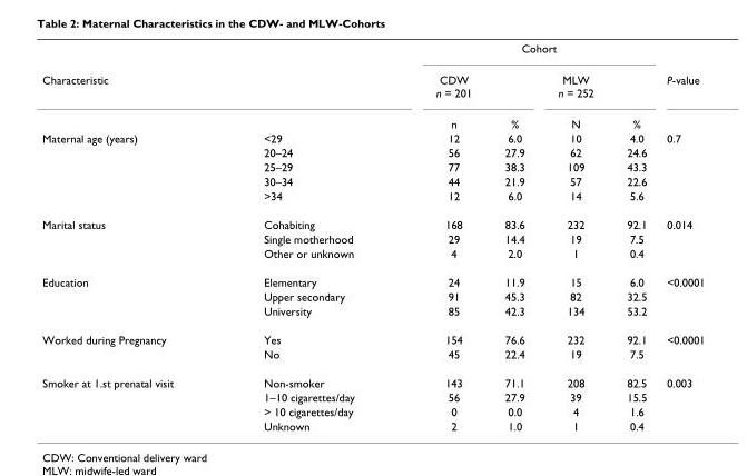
<table><thead><tr><td rowspan="2">Characteristic</td><td rowspan="2"></td><td colspan="4">Cohort</td><td rowspan="2">P-value</td></tr><tr><td>CDW n = 201</td><td></td><td>MLW n = 252</td><td></td></tr></thead><tbody><tr><td></td><td></td><td>n</td><td>%</td><td>N</td><td>%</td><td></td></tr><tr><td rowspan="5">Maternal age (years)</td><td>&lt;29</td><td>12</td><td>6.0</td><td>10</td><td>4.0</td><td>0.7</td></tr><tr><td>20–24</td><td>56</td><td>27.9</td><td>62</td><td>24.6</td><td></td></tr><tr><td>25–29</td><td>77</td><td>38.3</td><td>109</td><td>43.3</td><td></td></tr><tr><td>30–34</td><td>44</td><td>21.9</td><td>57</td><td>22.6</td><td></td></tr><tr><td>&gt;34</td><td>12</td><td>6.0</td><td>14</td><td>5.6</td><td></td></tr><tr><td rowspan="3">Marital status</td><td>Cohabiting</td><td>168</td><td>83.6</td><td>232</td><td>92.1</td><td>0.014</td></tr><tr><td>Single motherhood</td><td>29</td><td>14.4</td><td>19</td><td>7.5</td><td></td></tr><tr><td>Other or unknown</td><td>4</td><td>2.0</td><td>1</td><td>0.4</td><td></td></tr><tr><td rowspan="3">Education</td><td>Elementary</td><td>24</td><td>11.9</td><td>15</td><td>6.0</td><td>&lt;0.0001</td></tr><tr><td>Upper secondary</td><td>91</td><td>45.3</td><td>82</td><td>32.5</td><td></td></tr><tr><td>University</td><td>85</td><td>42.3</td><td>134</td><td>53.2</td><td></td></tr><tr><td rowspan="2">Worked during Pregnancy</td><td>Yes</td><td>154</td><td>76.6</td><td>232</td><td>92.1</td><td>&lt;0.0001</td></tr><tr><td>No</td><td>45</td><td>22.4</td><td>19</td><td>7.5</td><td></td></tr><tr><td rowspan="4">Smoker at 1.st prenatal visit</td><td>Non-smoker</td><td>143</td><td>71.1</td><td>208</td><td>82.5</td><td>0.003</td></tr><tr><td>1–10 cigarettes/day</td><td>56</td><td>27.9</td><td>39</td><td>15.5</td><td></td></tr><tr><td>&gt; 10 cigarettes/day</td><td>0</td><td>0.0</td><td>4</td><td>1.6</td><td></td></tr><tr><td>Unknown</td><td>2</td><td>1.0</td><td>1</td><td>0.4</td><td></td></tr></tbody></table>